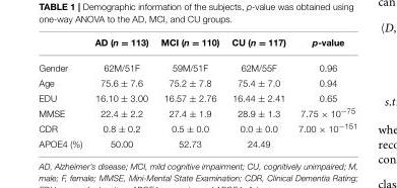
<table><thead><tr><td></td><td>AD (n = 113)</td><td>MCI (n = 110)</td><td>CU (n = 117)</td><td>p-value</td></tr></thead><tbody><tr><td>Gender</td><td>62M/51F</td><td>59M/51F</td><td>62M/55F</td><td>0.96</td></tr><tr><td>Age</td><td>75.6 ± 7.6</td><td>75.2 ± 7.8</td><td>75.4 ± 7.0</td><td>0.94</td></tr><tr><td>EDU</td><td>16.10 ± 3.00</td><td>16.57 ± 2.76</td><td>16.44 ± 2.41</td><td>0.65</td></tr><tr><td>MMSE</td><td>22.4 ± 2.2</td><td>27.4 ± 1.9</td><td>28.9 ± 1.3</td><td>7.75 × 10<sup>−75</sup></td></tr><tr><td>CDR</td><td>0.8 ± 0.2</td><td>0.5 ± 0.0</td><td>0.0 ± 0.0</td><td>7.00 × 10<sup>−151</sup></td></tr><tr><td>APOE4 (%)</td><td>50.00</td><td>52.73</td><td>24.49</td><td></td></tr></tbody></table>